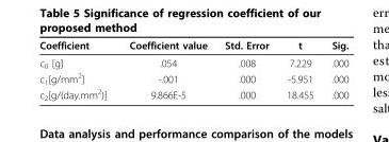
<table><thead><tr><td>Coefficient</td><td>Coefficient value</td><td>Std. Error</td><td>t</td><td>Sig.</td></tr></thead><tbody><tr><td>c<sub>0</sub> [g]</td><td>.054</td><td>.008</td><td>7.229</td><td>.000</td></tr><tr><td>c<sub>1</sub>[g/mm<sup>2</sup>]</td><td>-.001</td><td>.000</td><td>-5.951</td><td>.000</td></tr><tr><td>c<sub>2</sub>[g/(day.mm<sup>2</sup>)]</td><td>9.866E-5</td><td>.000</td><td>18.455</td><td>.000</td></tr></tbody></table>